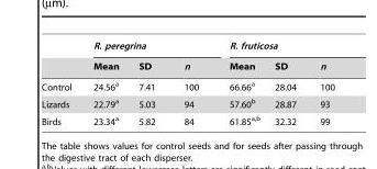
<table><thead><tr><td rowspan="2"></td><td colspan="3">R. peregrina</td><td colspan="3">R. fruticosa</td></tr><tr><td>Mean</td><td>SD</td><td>n</td><td>Mean</td><td>SD</td><td>n</td></tr></thead><tbody><tr><td>Control</td><td>24.56<sup>a</sup></td><td>7.41</td><td>100</td><td>66.66<sup>a</sup></td><td>28.04</td><td>100</td></tr><tr><td>Lizards</td><td>22.79<sup>a</sup></td><td>5.03</td><td>94</td><td>57.60<sup>b</sup></td><td>28.87</td><td>93</td></tr><tr><td>Birds</td><td>23.34<sup>a</sup></td><td>5.82</td><td>84</td><td>61.85<sup>a,b</sup></td><td>32.32</td><td>99</td></tr></tbody></table>